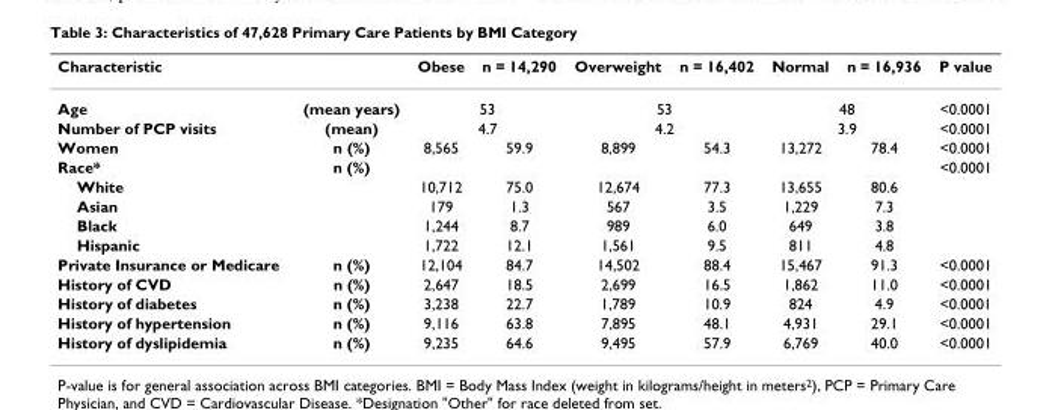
<table><thead><tr><td>Characteristic</td><td></td><td>Obese</td><td>n = 14,290</td><td>Overweight</td><td>n = 16,402</td><td>Normal</td><td>n = 16,936</td><td>P value</td></tr></thead><tbody><tr><td>Age</td><td>(mean years)</td><td colspan="2">53</td><td colspan="2">53</td><td colspan="2">48</td><td>&lt;0.0001</td></tr><tr><td>Number of PCP visits</td><td>(mean)</td><td colspan="2">4.7</td><td colspan="2">4.2</td><td colspan="2">3.9</td><td>&lt;0.0001</td></tr><tr><td>Women</td><td>n (%)</td><td>8,565</td><td>59.9</td><td>8,899</td><td>54.3</td><td>13,272</td><td>78.4</td><td>&lt;0.0001</td></tr><tr><td>Race*</td><td>n (%)</td><td></td><td></td><td></td><td></td><td></td><td></td><td>&lt;0.0001</td></tr><tr><td>White</td><td></td><td>10,712</td><td>75.0</td><td>12,674</td><td>77.3</td><td>13,655</td><td>80.6</td><td></td></tr><tr><td>Asian</td><td></td><td>179</td><td>1.3</td><td>567</td><td>3.5</td><td>1,229</td><td>7.3</td><td></td></tr><tr><td>Black</td><td></td><td>1,244</td><td>8.7</td><td>989</td><td>6.0</td><td>649</td><td>3.8</td><td></td></tr><tr><td>Hispanic</td><td></td><td>1,722</td><td>12.1</td><td>1,561</td><td>9.5</td><td>811</td><td>4.8</td><td></td></tr><tr><td>Private Insurance or Medicare</td><td>n (%)</td><td>12,104</td><td>84.7</td><td>14,502</td><td>88.4</td><td>15,467</td><td>91.3</td><td>&lt;0.0001</td></tr><tr><td>History of CVD</td><td>n (%)</td><td>2,647</td><td>18.5</td><td>2,699</td><td>16.5</td><td>1,862</td><td>11.0</td><td>&lt;0.0001</td></tr><tr><td>History of diabetes</td><td>n (%)</td><td>3,238</td><td>22.7</td><td>1,789</td><td>10.9</td><td>824</td><td>4.9</td><td>&lt;0.0001</td></tr><tr><td>History of hypertension</td><td>n (%)</td><td>9,116</td><td>63.8</td><td>7,895</td><td>48.1</td><td>4,931</td><td>29.1</td><td>&lt;0.0001</td></tr><tr><td>History of dyslipidemia</td><td>n (%)</td><td>9,235</td><td>64.6</td><td>9,495</td><td>57.9</td><td>6,769</td><td>40.0</td><td>&lt;0.0001</td></tr></tbody></table>